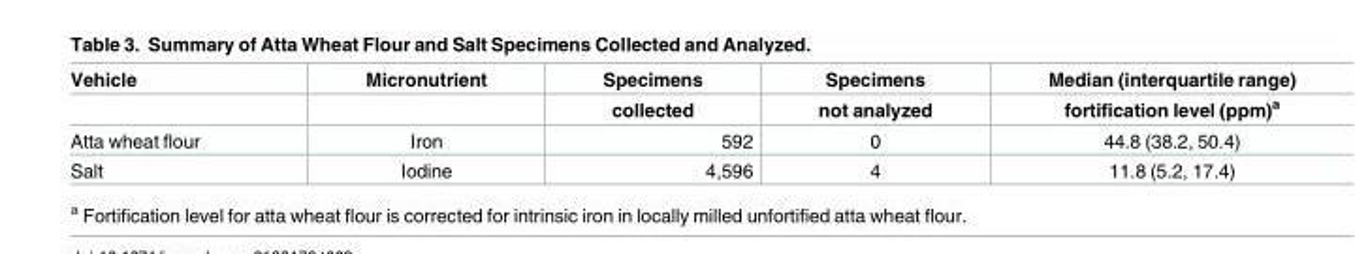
<table><thead><tr><td rowspan="2">Vehicle</td><td rowspan="2">Micronutrient</td><td rowspan="2">Specimens collected</td><td rowspan="2">Specimens not analyzed</td><td rowspan="2">Median (interquartile range) fortification level (ppm)<sup>a</sup></td></tr><tr></tr></thead><tbody><tr><td>Atta wheat flour</td><td>Iron</td><td>592</td><td>0</td><td>44.8 (38.2, 50.4)</td></tr><tr><td>Salt</td><td>Iodine</td><td>4,596</td><td>4</td><td>11.8 (5.2, 17.4)</td></tr></tbody></table>